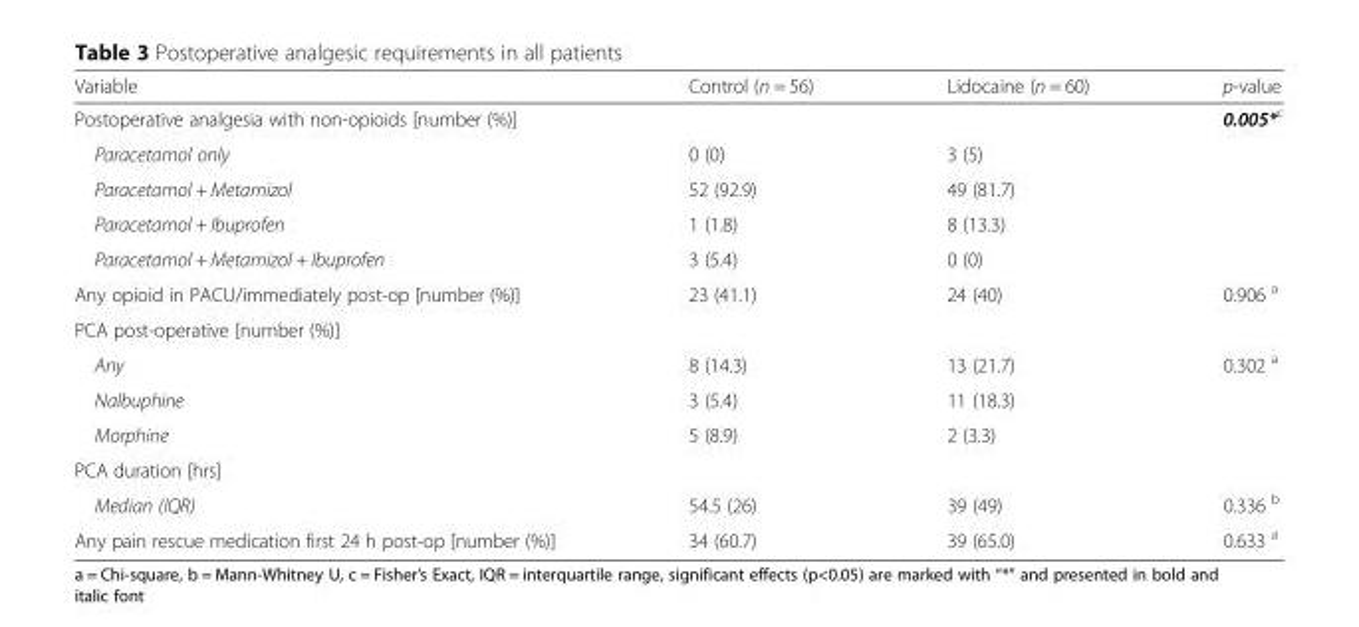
<table><thead><tr><td>Variable</td><td>Control (n = 56)</td><td>Lidocaine (n = 60)</td><td>p-value</td></tr></thead><tbody><tr><td>Postoperative analgesia with non-opioids [number (%)]</td><td></td><td></td><td>0.005*<sup>c</sup></td></tr><tr><td>Paracetamol only</td><td>0 (0)</td><td>3 (5)</td><td></td></tr><tr><td>Paracetamol + Metamizol</td><td>52 (92.9)</td><td>49 (81.7)</td><td></td></tr><tr><td>Paracetamol + Ibuprofen</td><td>1 (1.8)</td><td>8 (13.3)</td><td></td></tr><tr><td>Paracetamol + Metamizol + Ibuprofen</td><td>3 (5.4)</td><td>0 (0)</td><td></td></tr><tr><td>Any opioid in PACU/immediately post-op [number (%)]</td><td>23 (41.1)</td><td>24 (40)</td><td>0.906 <sup>a</sup></td></tr><tr><td colspan="4">PCA post-operative [number (%)]</td></tr><tr><td>Any</td><td>8 (14.3)</td><td>13 (21.7)</td><td>0.302 <sup>a</sup></td></tr><tr><td>Nalbuphine</td><td>3 (5.4)</td><td>11 (18.3)</td><td></td></tr><tr><td>Morphine</td><td>5 (8.9)</td><td>2 (3.3)</td><td></td></tr><tr><td colspan="4">PCA duration [hrs]</td></tr><tr><td>Median (IQR)</td><td>54.5 (26)</td><td>39 (49)</td><td>0.336 <sup>b</sup></td></tr><tr><td>Any pain rescue medication first 24 h post-op [number (%)]</td><td>34 (60.7)</td><td>39 (65.0)</td><td>0.633 <sup>a</sup></td></tr></tbody></table>